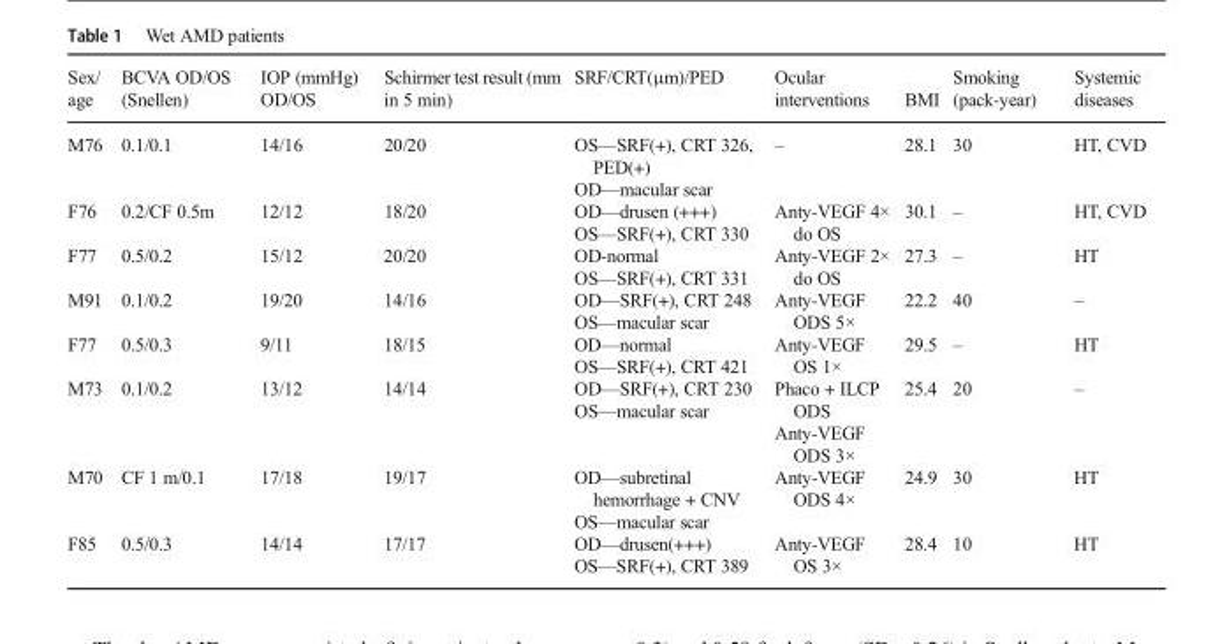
<table><thead><tr><td>Sex/ age</td><td>BCVA OD/OS (Snellen)</td><td>IOP (mmHg) OD/OS</td><td>Schirmer test result (mm in 5 min)</td><td>SRF/CRT(μm)/PED</td><td>Ocular interventions</td><td>BMI</td><td>Smoking (pack-year)</td><td>Systemic diseases</td></tr></thead><tbody><tr><td>M76</td><td>0.1/0.1</td><td>14/16</td><td>20/20</td><td>OS—SRF(+), CRT 326, PED(+) OD—macular scar</td><td>–</td><td>28.1</td><td>30</td><td>HT, CVD</td></tr><tr><td>F76</td><td>0.2/CF 0.5m</td><td>12/12</td><td>18/20</td><td>OD—drusen (+++) OS—SRF(+), CRT 330</td><td>Anty-VEGF 4× do OS</td><td>30.1</td><td>–</td><td>HT, CVD</td></tr><tr><td>F77</td><td>0.5/0.2</td><td>15/12</td><td>20/20</td><td>OD-normal OS—SRF(+), CRT 331</td><td>Anty-VEGF 2× do OS</td><td>27.3</td><td>–</td><td>HT</td></tr><tr><td>M91</td><td>0.1/0.2</td><td>19/20</td><td>14/16</td><td>OD—SRF(+), CRT 248 OS—macular scar</td><td>Anty-VEGF ODS 5×</td><td>22.2</td><td>40</td><td>–</td></tr><tr><td>F77</td><td>0.5/0.3</td><td>9/11</td><td>18/15</td><td>OD—normal OS—SRF(+), CRT 421</td><td>Anty-VEGF OS 1×</td><td>29.5</td><td>–</td><td>HT</td></tr><tr><td>M73</td><td>0.1/0.2</td><td>13/12</td><td>14/14</td><td>OD—SRF(+), CRT 230 OS—macular scar</td><td>Phaco + ILCP ODS Anty-VEGF ODS 3×</td><td>25.4</td><td>20</td><td>–</td></tr><tr><td>M70</td><td>CF 1 m/0.1</td><td>17/18</td><td>19/17</td><td>OD—subretinal hemorrhage + CNV OS—macular scar</td><td>Anty-VEGF ODS 4×</td><td>24.9</td><td>30</td><td>HT</td></tr><tr><td>F85</td><td>0.5/0.3</td><td>14/14</td><td>17/17</td><td>OD—drusen(+++) OS—SRF(+), CRT 389</td><td>Anty-VEGF OS 3×</td><td>28.4</td><td>10</td><td>HT</td></tr></tbody></table>